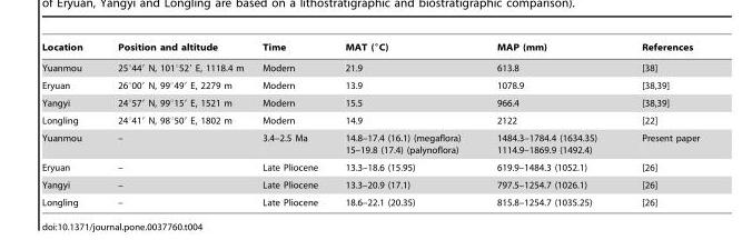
<table><thead><tr><td>Location</td><td>Position and altitude</td><td>Time</td><td>MAT (°C)</td><td>MAP (mm)</td><td>References</td></tr></thead><tbody><tr><td>Yuanmou</td><td>25°44′ N, 101°52′ E, 1118.4 m</td><td>Modern</td><td>21.9</td><td>613.8</td><td>[38]</td></tr><tr><td>Eryuan</td><td>26°00′ N, 99°49′ E, 2279 m</td><td>Modern</td><td>13.9</td><td>1078.9</td><td>[38,39]</td></tr><tr><td>Yangyi</td><td>24°57′ N, 99°15′ E, 1521 m</td><td>Modern</td><td>15.5</td><td>966.4</td><td>[38,39]</td></tr><tr><td>Longling</td><td>24°41′ N, 98°50′ E, 1802 m</td><td>Modern</td><td>14.9</td><td>2122</td><td>[22]</td></tr><tr><td>Yuanmou</td><td>–</td><td>3.4–2.5 Ma</td><td>14.8–17.4 (16.1) (megaflora) 15–19.8 (17.4) (palynoflora)</td><td>1484.3–1784.4 (1634.35) 1114.9–1869.9 (1492.4)</td><td>Present paper</td></tr><tr><td>Eryuan</td><td>–</td><td>Late Pliocene</td><td>13.3–18.6 (15.95)</td><td>619.9–1484.3 (1052.1)</td><td>[26]</td></tr><tr><td>Yangyi</td><td>–</td><td>Late Pliocene</td><td>13.3–20.9 (17.1)</td><td>797.5–1254.7 (1026.1)</td><td>[26]</td></tr><tr><td>Longling</td><td>–</td><td>Late Pliocene</td><td>18.6–22.1 (20.35)</td><td>815.8–1254.7 (1035.25)</td><td>[26]</td></tr></tbody></table>